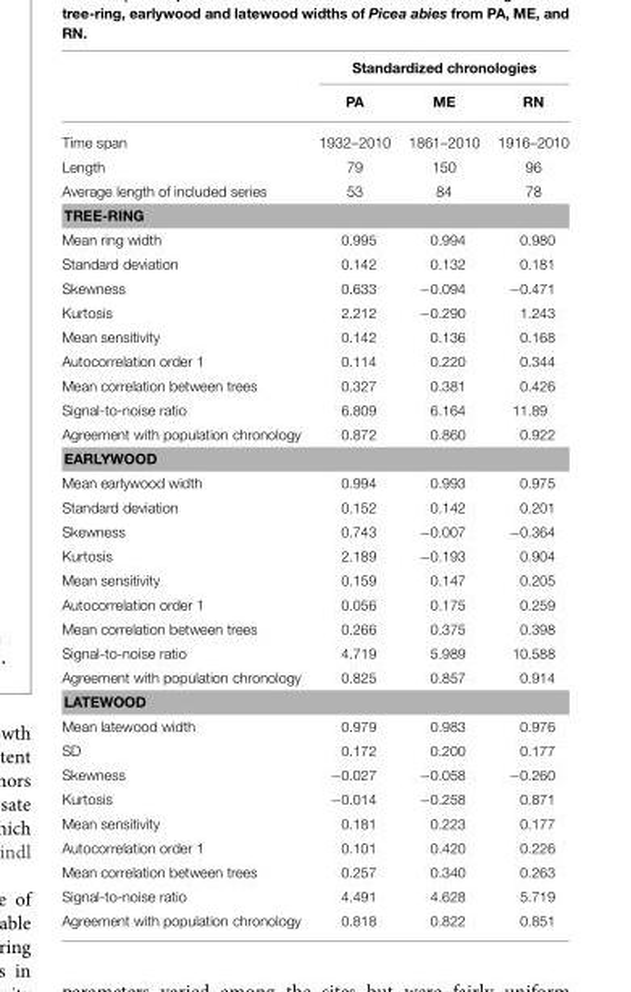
<table><thead><tr><td rowspan="2"></td><td colspan="3">Standardized chronologies</td></tr><tr><td>PA</td><td>ME</td><td>RN</td></tr></thead><tbody><tr><td>Time span</td><td>1932–2010</td><td>1861–2010</td><td>1916–2010</td></tr><tr><td>Length</td><td>79</td><td>150</td><td>96</td></tr><tr><td>Average length of included series</td><td>53</td><td>84</td><td>78</td></tr><tr><td colspan="4">TREE-RING</td></tr><tr><td>Mean ring width</td><td>0.995</td><td>0.994</td><td>0.980</td></tr><tr><td>Standard deviation</td><td>0.142</td><td>0.132</td><td>0.181</td></tr><tr><td>Skewness</td><td>0.633</td><td>−0.094</td><td>−0.471</td></tr><tr><td>Kurtosis</td><td>2.212</td><td>−0.290</td><td>1.243</td></tr><tr><td>Mean sensitivity</td><td>0.142</td><td>0.136</td><td>0.168</td></tr><tr><td>Autocorrelation order 1</td><td>0.114</td><td>0.220</td><td>0.344</td></tr><tr><td>Mean correlation between trees</td><td>0.327</td><td>0.381</td><td>0.426</td></tr><tr><td>Signal-to-noise ratio</td><td>6.809</td><td>6.164</td><td>11.89</td></tr><tr><td>Agreement with population chronology</td><td>0.872</td><td>0.860</td><td>0.922</td></tr><tr><td colspan="4">EARLYWOOD</td></tr><tr><td>Mean earlywood width</td><td>0.994</td><td>0.993</td><td>0.975</td></tr><tr><td>Standard deviation</td><td>0.152</td><td>0.142</td><td>0.201</td></tr><tr><td>Skewness</td><td>0.743</td><td>−0.007</td><td>−0.364</td></tr><tr><td>Kurtosis</td><td>2.189</td><td>−0.193</td><td>0.904</td></tr><tr><td>Mean sensitivity</td><td>0.159</td><td>0.147</td><td>0.205</td></tr><tr><td>Autocorrelation order 1</td><td>0.056</td><td>0.175</td><td>0.259</td></tr><tr><td>Mean correlation between trees</td><td>0.266</td><td>0.375</td><td>0.398</td></tr><tr><td>Signal-to-noise ratio</td><td>4.719</td><td>5.989</td><td>10.588</td></tr><tr><td>Agreement with population chronology</td><td>0.825</td><td>0.857</td><td>0.914</td></tr><tr><td colspan="4">LATEWOOD</td></tr><tr><td>Mean latewood width</td><td>0.979</td><td>0.983</td><td>0.976</td></tr><tr><td>SD</td><td>0.172</td><td>0.200</td><td>0.177</td></tr><tr><td>Skewness</td><td>−0.027</td><td>−0.058</td><td>−0.260</td></tr><tr><td>Kurtosis</td><td>−0.014</td><td>−0.258</td><td>0.871</td></tr><tr><td>Mean sensitivity</td><td>0.181</td><td>0.223</td><td>0.177</td></tr><tr><td>Autocorrelation order 1</td><td>0.101</td><td>0.420</td><td>0.226</td></tr><tr><td>Mean correlation between trees</td><td>0.257</td><td>0.340</td><td>0.263</td></tr><tr><td>Signal-to-noise ratio</td><td>4.491</td><td>4.628</td><td>5.719</td></tr><tr><td>Agreement with population chronology</td><td>0.818</td><td>0.822</td><td>0.851</td></tr></tbody></table>